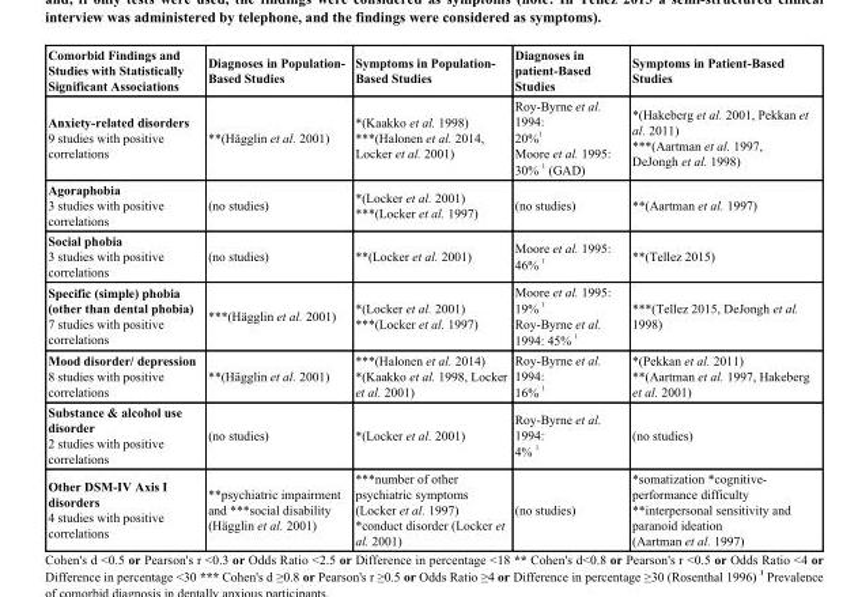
<table><thead><tr><td>Comorbid Findings and Studies with Statistically Significant Associations</td><td>Diagnoses in Population- Based Studies</td><td>Symptoms in Population- Based Studies</td><td>Diagnoses in patient-Based Studies</td><td>Symptoms in Patient-Based Studies</td></tr></thead><tbody><tr><td>Anxiety-related disorders 9 studies with positive correlations</td><td>**(Hägglin et al. 2001)</td><td>*(Kaakko et al. 1998) ***(Halonen et al. 2014, Locker et al. 2001)</td><td>Roy-Byrne et al. 1994: 20% <sup>1</sup> Moore et al. 1995: 30% <sup>1</sup> (GAD)</td><td>*(Hakeberg et al. 2001, Pekkan et al. 2011) ***(Aartman et al. 1997, DeJongh et al. 1998)</td></tr><tr><td>Agoraphobia 3 studies with positive correlations</td><td>(no studies)</td><td>*(Locker et al. 2001) ***(Locker et al. 1997)</td><td>(no studies)</td><td>**(Aartman et al. 1997)</td></tr><tr><td>Social phobia 3 studies with positive correlations</td><td>(no studies)</td><td>**(Locker et al. 2001)</td><td>Moore et al. 1995: 46% <sup>1</sup></td><td>**(Tellez 2015)</td></tr><tr><td>Specific (simple) phobia (other than dental phobia) 7 studies with positive correlations</td><td>***(Hägglin et al. 2001)</td><td>*(Locker et al. 2001) ***(Locker et al. 1997)</td><td>Moore et al. 1995: 19% <sup>1</sup> Roy-Byrne et al. 1994: 45% <sup>1</sup></td><td>***(Tellez 2015, DeJongh et al. 1998)</td></tr><tr><td>Mood disorder/ depression 8 studies with positive correlations</td><td>**(Hägglin et al. 2001)</td><td>***(Halonen et al. 2014) *(Kaakko et al. 1998, Locker et al. 2001)</td><td>Roy-Byrne et al. 1994: 16% <sup>1</sup></td><td>*(Pekkan et al. 2011) **(Aartman et al. 1997, Hakeberg et al. 2001)</td></tr><tr><td>Substance &amp; alcohol use disorder 2 studies with positive correlations</td><td>(no studies)</td><td>*(Locker et al. 2001)</td><td>Roy-Byrne et al. 1994: 4% <sup>1</sup></td><td>(no studies)</td></tr><tr><td>Other DSM-IV Axis I disorders 4 studies with positive correlations</td><td>**psychiatric impairment and ***social disability (Hägglin et al. 2001)</td><td>***number of other psychiatric symptoms (Locker et al. 1997) *conduct disorder (Locker et al. 2001)</td><td>(no studies)</td><td>*somatization *cognitive- performance difficulty **interpersonal sensitivity and paranoid ideation (Aartman et al. 1997)</td></tr></tbody></table>